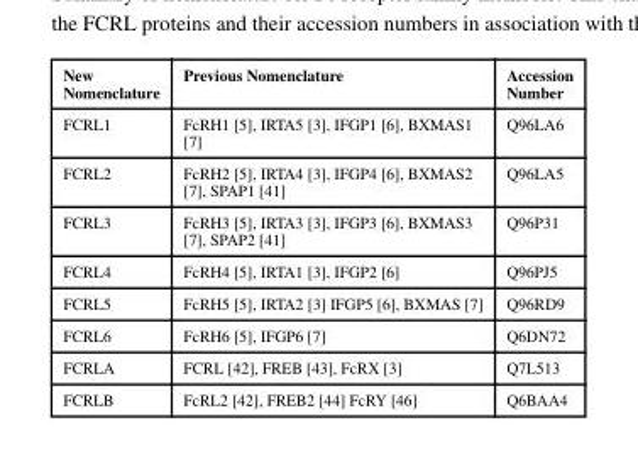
<table><thead><tr><td>New Nomenclature</td><td>Previous Nomenclature</td><td>Accession Number</td></tr></thead><tbody><tr><td>FCRL1</td><td>FcRH1 [5], IRTA5 [3], IFGP1 [6], BXMAS1 [7]</td><td>Q96LA6</td></tr><tr><td>FCRL2</td><td>FcRH2 [5], IRTA4 [3], IFGP4 [6], BXMAS2 [7], SPAP1 [41]</td><td>Q96LA5</td></tr><tr><td>FCRL3</td><td>FcRH3 [5], IRTA3 [3], IFGP3 [6], BXMAS3 [7], SPAP2 [41]</td><td>Q96P31</td></tr><tr><td>FCRL4</td><td>FcRH4 [5], IRTA1 [3], IFGP2 [6]</td><td>Q96PJ5</td></tr><tr><td>FCRL5</td><td>FcRH5 [5], IRTA2 [3] IFGP5 [6], BXMAS [7]</td><td>Q96RD9</td></tr><tr><td>FCRL6</td><td>FcRH6 [5], IFGP6 [7]</td><td>Q6DN72</td></tr><tr><td>FCRLA</td><td>FCRL [42], FREB [43], FcRX [3]</td><td>Q7L513</td></tr><tr><td>FCRLB</td><td>FcRL2 [42], FREB2 [44] FcRY [46]</td><td>Q6BAA4</td></tr></tbody></table>